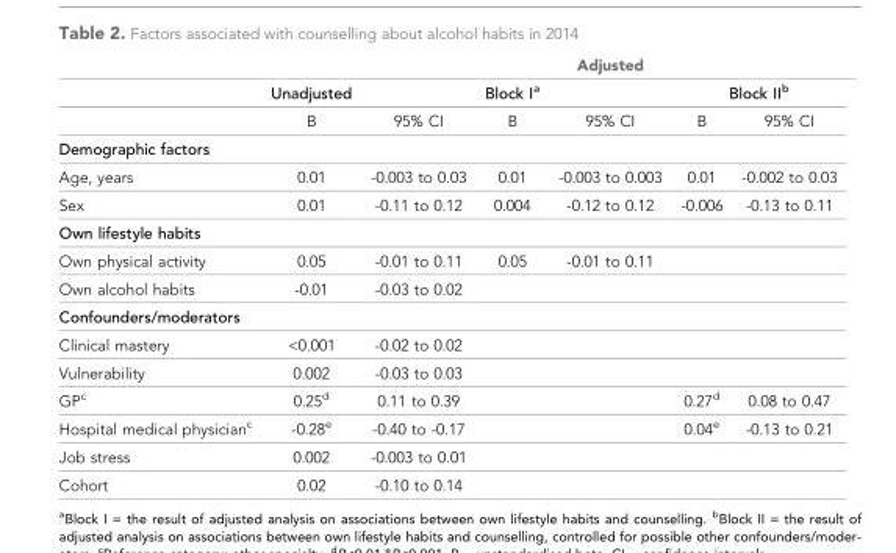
<table><thead><tr><td></td><td></td><td></td><td></td><td>Adjusted</td><td></td><td></td></tr></thead><tbody><tr><td></td><td>Unadjusted</td><td></td><td>Block I<sup>a</sup></td><td></td><td colspan="2">Block II<sup>b</sup></td></tr><tr><td></td><td>B</td><td>95% CI</td><td>B</td><td>95% CI</td><td>B</td><td>95% CI</td></tr><tr><td colspan="7">Demographic factors</td></tr><tr><td>Age, years</td><td>0.01</td><td>-0.003 to 0.03</td><td>0.01</td><td>-0.003 to 0.003</td><td>0.01</td><td>-0.002 to 0.03</td></tr><tr><td>Sex</td><td>0.01</td><td>-0.11 to 0.12</td><td>0.004</td><td>-0.12 to 0.12</td><td>-0.006</td><td>-0.13 to 0.11</td></tr><tr><td colspan="7">Own lifestyle habits</td></tr><tr><td>Own physical activity</td><td>0.05</td><td>-0.01 to 0.11</td><td>0.05</td><td>-0.01 to 0.11</td><td></td><td></td></tr><tr><td>Own alcohol habits</td><td>-0.01</td><td>-0.03 to 0.02</td><td></td><td></td><td></td><td></td></tr><tr><td colspan="7">Confounders/moderators</td></tr><tr><td>Clinical mastery</td><td>&lt;0.001</td><td>-0.02 to 0.02</td><td></td><td></td><td></td><td></td></tr><tr><td>Vulnerability</td><td>0.002</td><td>-0.03 to 0.03</td><td></td><td></td><td></td><td></td></tr><tr><td>GP<sup>c</sup></td><td>0.25<sup>d</sup></td><td>0.11 to 0.39</td><td></td><td></td><td>0.27<sup>d</sup></td><td>0.08 to 0.47</td></tr><tr><td>Hospital medical physician<sup>c</sup></td><td>-0.28<sup>e</sup></td><td>-0.40 to -0.17</td><td></td><td></td><td>0.04<sup>e</sup></td><td>-0.13 to 0.21</td></tr><tr><td>Job stress</td><td>0.002</td><td>-0.003 to 0.01</td><td></td><td></td><td></td><td></td></tr><tr><td>Cohort</td><td>0.02</td><td>-0.10 to 0.14</td><td></td><td></td><td></td><td></td></tr></tbody></table>